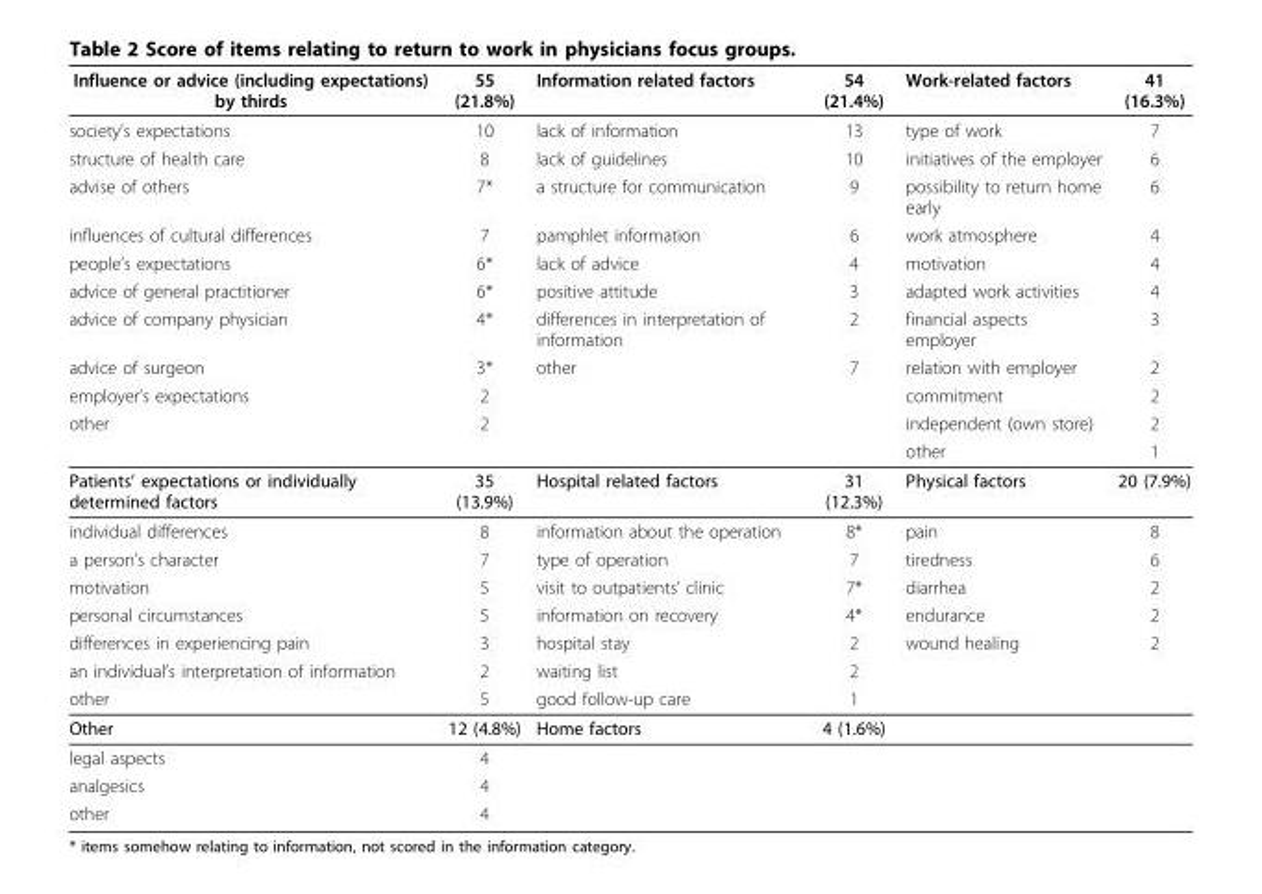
<table><thead><tr><td>Influence or advice (including expectations) by thirds</td><td>55 (21.8%)</td><td>Information related factors</td><td>54 (21.4%)</td><td>Work-related factors</td><td>41 (16.3%)</td></tr></thead><tbody><tr><td>society’s expectations</td><td>10</td><td>lack of information</td><td>13</td><td>type of work</td><td>7</td></tr><tr><td>structure of health care</td><td>8</td><td>lack of guidelines</td><td>10</td><td>initiatives of the employer</td><td>6</td></tr><tr><td>advise of others</td><td>7*</td><td>a structure for communication</td><td>9</td><td>possibility to return home early</td><td>6</td></tr><tr><td>influences of cultural differences</td><td>7</td><td>pamphlet information</td><td>6</td><td>work atmosphere</td><td>4</td></tr><tr><td>people’s expectations</td><td>6*</td><td>lack of advice</td><td>4</td><td>motivation</td><td>4</td></tr><tr><td>advice of general practitioner</td><td>6*</td><td>positive attitude</td><td>3</td><td>adapted work activities</td><td>4</td></tr><tr><td>advice of company physician</td><td>4*</td><td>differences in interpretation of information</td><td>2</td><td>financial aspects employer</td><td>3</td></tr><tr><td>advice of surgeon</td><td>3*</td><td>other</td><td>7</td><td>relation with employer</td><td>2</td></tr><tr><td>employer’s expectations</td><td>2</td><td></td><td></td><td>commitment</td><td>2</td></tr><tr><td rowspan="2">other</td><td>2</td><td></td><td></td><td>independent (own store)</td><td>2</td></tr><tr><td></td><td></td><td></td><td>other</td><td>1</td></tr><tr><td>Patients’ expectations or individually determined factors</td><td>35 (13.9%)</td><td>Hospital related factors</td><td>31 (12.3%)</td><td>Physical factors</td><td>20 (7.9%)</td></tr><tr><td>individual differences</td><td>8</td><td>information about the operation</td><td>8*</td><td>pain</td><td>8</td></tr><tr><td>a person’s character</td><td>7</td><td>type of operation</td><td>7</td><td>tiredness</td><td>6</td></tr><tr><td>motivation</td><td>5</td><td>visit to outpatients’ clinic</td><td>7*</td><td>diarrhea</td><td>2</td></tr><tr><td>personal circumstances</td><td>5</td><td>information on recovery</td><td>4*</td><td>endurance</td><td>2</td></tr><tr><td>differences in experiencing pain</td><td>3</td><td>hospital stay</td><td>2</td><td>wound healing</td><td>2</td></tr><tr><td>an individual’s interpretation of information</td><td>2</td><td>waiting list</td><td>2</td><td></td><td></td></tr><tr><td>other</td><td>5</td><td>good follow-up care</td><td>1</td><td></td><td></td></tr><tr><td>Other</td><td>12 (4.8%)</td><td>Home factors</td><td>4 (1.6%)</td><td></td><td></td></tr><tr><td>legal aspects</td><td>4</td><td></td><td></td><td></td><td></td></tr><tr><td>analgesics</td><td>4</td><td></td><td></td><td></td><td></td></tr><tr><td>other</td><td>4</td><td></td><td></td><td></td><td></td></tr></tbody></table>